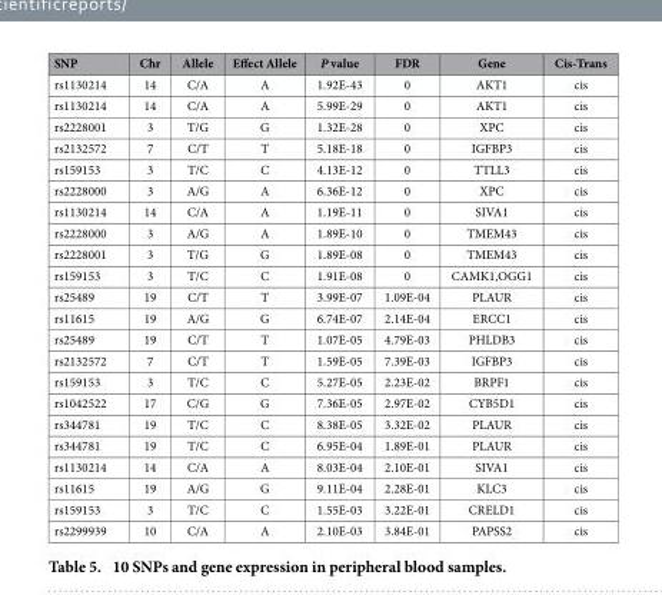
<table><thead><tr><td>SNP</td><td>Chr</td><td>Allele</td><td>Effect Allele</td><td>P value</td><td>FDR</td><td>Gene</td><td>Cis-Trans</td></tr></thead><tbody><tr><td>rs1130214</td><td>14</td><td>C/A</td><td>A</td><td>1.92E-43</td><td>0</td><td>AKT1</td><td>cis</td></tr><tr><td>rs1130214</td><td>14</td><td>C/A</td><td>A</td><td>5.99E-29</td><td>0</td><td>AKT1</td><td>cis</td></tr><tr><td>rs2228001</td><td>3</td><td>T/G</td><td>G</td><td>1.32E-28</td><td>0</td><td>XPC</td><td>cis</td></tr><tr><td>rs2132572</td><td>7</td><td>C/T</td><td>T</td><td>5.18E-18</td><td>0</td><td>IGFBP3</td><td>cis</td></tr><tr><td>rs159153</td><td>3</td><td>T/C</td><td>C</td><td>4.13E-12</td><td>0</td><td>TTLL3</td><td>cis</td></tr><tr><td>rs2228000</td><td>3</td><td>A/G</td><td>A</td><td>6.36E-12</td><td>0</td><td>XPC</td><td>cis</td></tr><tr><td>rs1130214</td><td>14</td><td>C/A</td><td>A</td><td>1.19E-11</td><td>0</td><td>SIVA1</td><td>cis</td></tr><tr><td>rs2228000</td><td>3</td><td>A/G</td><td>A</td><td>1.89E-10</td><td>0</td><td>TMEM43</td><td>cis</td></tr><tr><td>rs2228001</td><td>3</td><td>T/G</td><td>G</td><td>1.89E-08</td><td>0</td><td>TMEM43</td><td>cis</td></tr><tr><td>rs159153</td><td>3</td><td>T/C</td><td>C</td><td>1.91E-08</td><td>0</td><td>CAMK1,OGG1</td><td>cis</td></tr><tr><td>rs25489</td><td>19</td><td>C/T</td><td>T</td><td>3.99E-07</td><td>1.09E-04</td><td>PLAUR</td><td>cis</td></tr><tr><td>rs11615</td><td>19</td><td>A/G</td><td>G</td><td>6.74E-07</td><td>2.14E-04</td><td>ERCC1</td><td>cis</td></tr><tr><td>rs25489</td><td>19</td><td>C/T</td><td>T</td><td>1.07E-05</td><td>4.79E-03</td><td>PHLDB3</td><td>cis</td></tr><tr><td>rs2132572</td><td>7</td><td>C/T</td><td>T</td><td>1.59E-05</td><td>7.39E-03</td><td>IGFBP3</td><td>cis</td></tr><tr><td>rs159153</td><td>3</td><td>T/C</td><td>C</td><td>5.27E-05</td><td>2.23E-02</td><td>BRPF1</td><td>cis</td></tr><tr><td>rs1042522</td><td>17</td><td>C/G</td><td>G</td><td>7.36E-05</td><td>2.97E-02</td><td>CYB5D1</td><td>cis</td></tr><tr><td>rs344781</td><td>19</td><td>T/C</td><td>C</td><td>8.38E-05</td><td>3.32E-02</td><td>PLAUR</td><td>cis</td></tr><tr><td>rs344781</td><td>19</td><td>T/C</td><td>C</td><td>6.95E-04</td><td>1.89E-01</td><td>PLAUR</td><td>cis</td></tr><tr><td>rs1130214</td><td>14</td><td>C/A</td><td>A</td><td>8.03E-04</td><td>2.10E-01</td><td>SIVA1</td><td>cis</td></tr><tr><td>rs11615</td><td>19</td><td>A/G</td><td>G</td><td>9.11E-04</td><td>2.28E-01</td><td>KLC3</td><td>cis</td></tr><tr><td>rs159153</td><td>3</td><td>T/C</td><td>C</td><td>1.55E-03</td><td>3.22E-01</td><td>CRELD1</td><td>cis</td></tr><tr><td>rs2299939</td><td>10</td><td>C/A</td><td>A</td><td>2.10E-03</td><td>3.84E-01</td><td>PAPSS2</td><td>cis</td></tr></tbody></table>